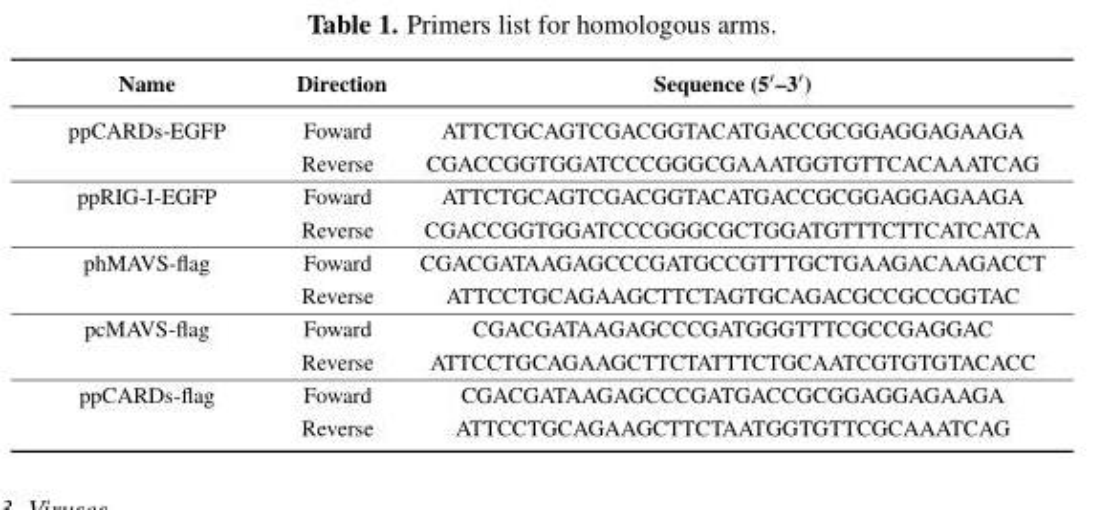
<table><thead><tr><td>Name</td><td>Direction</td><td>Sequence (5′–3′)</td></tr></thead><tbody><tr><td rowspan="2">ppCARDs-EGFP</td><td>Foward</td><td>ATTCTGCAGTCGACGGTACATGACCGCGGAGGAGAAGA</td></tr><tr><td>Reverse</td><td>CGACCGGTGGATCCCGGGCGAAATGGTGTTCACAAATCAG</td></tr><tr><td rowspan="2">ppRIG-I-EGFP</td><td>Foward</td><td>ATTCTGCAGTCGACGGTACATGACCGCGGAGGAGAAGA</td></tr><tr><td>Reverse</td><td>CGACCGGTGGATCCCGGGCGCTGGATGTTTCTTCATCATCA</td></tr><tr><td rowspan="2">phMAVS-flag</td><td>Foward</td><td>CGACGATAAGAGCCCGATGCCGTTTGCTGAAGACAAGACCT</td></tr><tr><td>Reverse</td><td>ATTCCTGCAGAAGCTTCTAGTGCAGACGCCGCCGGTAC</td></tr><tr><td rowspan="2">pcMAVS-flag</td><td>Foward</td><td>CGACGATAAGAGCCCGATGGGTTTCGCCGAGGAC</td></tr><tr><td>Reverse</td><td>ATTCCTGCAGAAGCTTCTATTTCTGCAATCGTGTGTACACC</td></tr><tr><td rowspan="2">ppCARDs-flag</td><td>Foward</td><td>CGACGATAAGAGCCCGATGACCGCGGAGGAGAAGA</td></tr><tr><td>Reverse</td><td>ATTCCTGCAGAAGCTTCTAATGGTGTTCGCAAATCAG</td></tr></tbody></table>